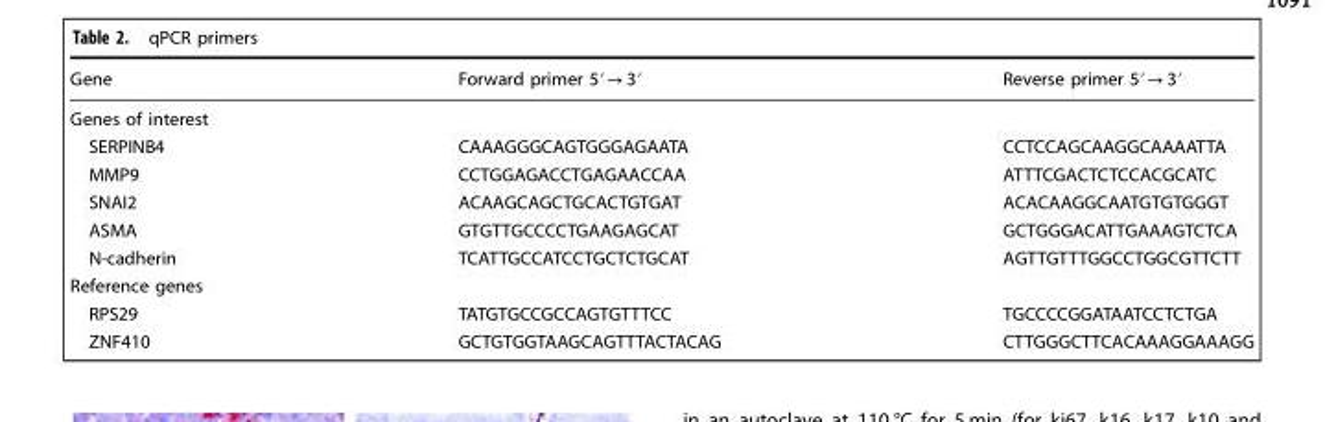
<table><thead><tr><td>Gene</td><td>Forward primer 5ʹ → 3ʹ</td><td>Reverse primer 5ʹ → 3ʹ</td></tr></thead><tbody><tr><td colspan="3">Genes of interest</td></tr><tr><td>SERPINB4</td><td>CAAAGGGCAGTGGGAGAATA</td><td>CCTCCAGCAAGGCAAAATTA</td></tr><tr><td>MMP9</td><td>CCTGGAGACCTGAGAACCAA</td><td>ATTTCGACTCTCCACGCATC</td></tr><tr><td>SNAI2</td><td>ACAAGCAGCTGCACTGTGAT</td><td>ACACAAGGCAATGTGTGGGT</td></tr><tr><td>ASMA</td><td>GTGTTGCCCCTGAAGAGCAT</td><td>GCTGGGACATTGAAAGTCTCA</td></tr><tr><td>N-cadherin</td><td>TCATTGCCATCCTGCTCTGCAT</td><td>AGTTGTTTGGCCTGGCGTTCTT</td></tr><tr><td colspan="3">Reference genes</td></tr><tr><td>RPS29</td><td>TATGTGCCGCCAGTGTTTCC</td><td>TGCCCCGGATAATCCTCTGA</td></tr><tr><td>ZNF410</td><td>GCTGTGGTAAGCAGTTTACTACAG</td><td>CTTGGGCTTCACAAAGGAAAGG</td></tr></tbody></table>